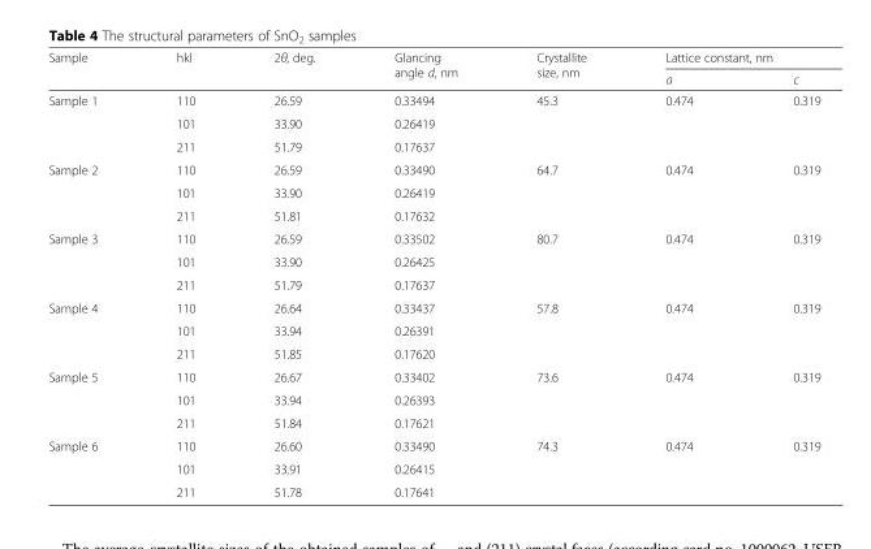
<table><thead><tr><td rowspan="2">Sample</td><td rowspan="2">hkl</td><td rowspan="2">2θ, deg.</td><td rowspan="2">Glancing angle d, nm</td><td rowspan="2">Crystallite size, nm</td><td colspan="2">Lattice constant, nm</td></tr><tr><td>a</td><td>c</td></tr></thead><tbody><tr><td rowspan="3">Sample 1</td><td>110</td><td>26.59</td><td>0.33494</td><td rowspan="3">45.3</td><td rowspan="3">0.474</td><td rowspan="3">0.319</td></tr><tr><td>101</td><td>33.90</td><td>0.26419</td></tr><tr><td>211</td><td>51.79</td><td>0.17637</td></tr><tr><td rowspan="3">Sample 2</td><td>110</td><td>26.59</td><td>0.33490</td><td rowspan="3">64.7</td><td rowspan="3">0.474</td><td rowspan="3">0.319</td></tr><tr><td>101</td><td>33.90</td><td>0.26419</td></tr><tr><td>211</td><td>51.81</td><td>0.17632</td></tr><tr><td rowspan="3">Sample 3</td><td>110</td><td>26.59</td><td>0.33502</td><td rowspan="3">80.7</td><td rowspan="3">0.474</td><td rowspan="3">0.319</td></tr><tr><td>101</td><td>33.90</td><td>0.26425</td></tr><tr><td>211</td><td>51.79</td><td>0.17637</td></tr><tr><td rowspan="3">Sample 4</td><td>110</td><td>26.64</td><td>0.33437</td><td rowspan="3">57.8</td><td rowspan="3">0.474</td><td rowspan="3">0.319</td></tr><tr><td>101</td><td>33.94</td><td>0.26391</td></tr><tr><td>211</td><td>51.85</td><td>0.17620</td></tr><tr><td rowspan="3">Sample 5</td><td>110</td><td>26.67</td><td>0.33402</td><td rowspan="3">73.6</td><td rowspan="3">0.474</td><td rowspan="3">0.319</td></tr><tr><td>101</td><td>33.94</td><td>0.26393</td></tr><tr><td>211</td><td>51.84</td><td>0.17621</td></tr><tr><td rowspan="3">Sample 6</td><td>110</td><td>26.60</td><td>0.33490</td><td rowspan="3">74.3</td><td rowspan="3">0.474</td><td rowspan="3">0.319</td></tr><tr><td>101</td><td>33.91</td><td>0.26415</td></tr><tr><td>211</td><td>51.78</td><td>0.17641</td></tr></tbody></table>